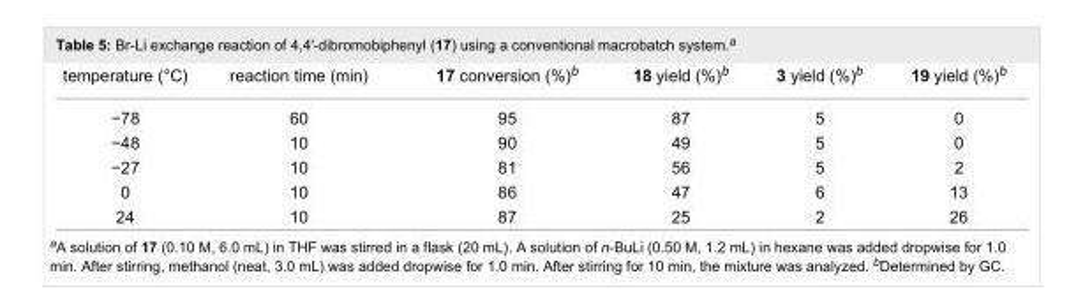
<table><tbody><tr><td>temperature (°C)</td><td>reaction time (min)</td><td>17 conversion (%)<sup>b</sup></td><td>18 yield (%)<sup>b</sup></td><td>3 yield (%)<sup>b</sup></td><td>19 yield (%)<sup>b</sup></td></tr><tr><td>−78</td><td>60</td><td>95</td><td>87</td><td>5</td><td>0</td></tr><tr><td>−48</td><td>10</td><td>90</td><td>49</td><td>5</td><td>0</td></tr><tr><td>−27</td><td>10</td><td>81</td><td>56</td><td>5</td><td>2</td></tr><tr><td>0</td><td>10</td><td>86</td><td>47</td><td>6</td><td>13</td></tr><tr><td>24</td><td>10</td><td>87</td><td>25</td><td>2</td><td>26</td></tr></tbody></table>